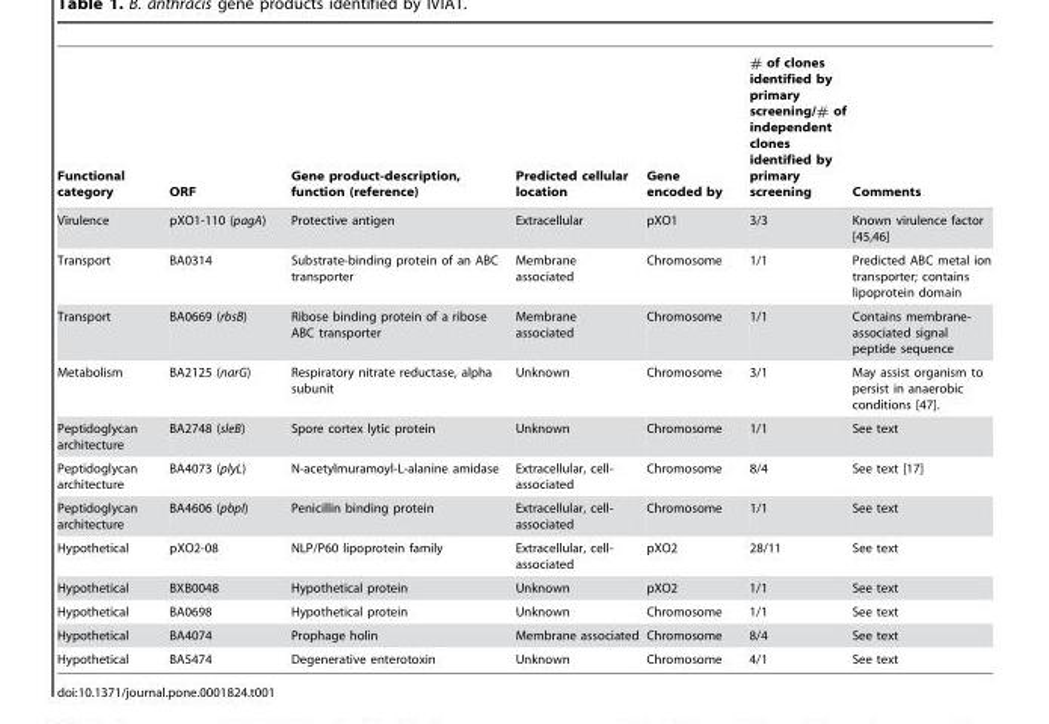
<table><thead><tr><td>Functional category</td><td>ORF</td><td>Gene product-description, function (reference)</td><td>Predicted cellular location</td><td>Gene encoded by</td><td># of clones identified by primary screening/# of independent clones identified by primary screening</td><td>Comments</td></tr></thead><tbody><tr><td>Virulence</td><td>pXO1-110 (pagA)</td><td>Protective antigen</td><td>Extracellular</td><td>pXO1</td><td>3/3</td><td>Known virulence factor [45,46]</td></tr><tr><td>Transport</td><td>BA0314</td><td>Substrate-binding protein of an ABC transporter</td><td>Membrane associated</td><td>Chromosome</td><td>1/1</td><td>Predicted ABC metal ion transporter; contains lipoprotein domain</td></tr><tr><td>Transport</td><td>BA0669 (rbsB)</td><td>Ribose binding protein of a ribose ABC transporter</td><td>Membrane associated</td><td>Chromosome</td><td>1/1</td><td>Contains membrane- associated signal peptide sequence</td></tr><tr><td>Metabolism</td><td>BA2125 (narG)</td><td>Respiratory nitrate reductase, alpha subunit</td><td>Unknown</td><td>Chromosome</td><td>3/1</td><td>May assist organism to persist in anaerobic conditions [47].</td></tr><tr><td>Peptidoglycan architecture</td><td>BA2748 (sleB)</td><td>Spore cortex lytic protein</td><td>Unknown</td><td>Chromosome</td><td>1/1</td><td>See text</td></tr><tr><td>Peptidoglycan architecture</td><td>BA4073 (plyL)</td><td>N-acetylmuramoyl-L-alanine amidase</td><td>Extracellular, cell- associated</td><td>Chromosome</td><td>8/4</td><td>See text [17]</td></tr><tr><td>Peptidoglycan architecture</td><td>BA4606 (pbpI)</td><td>Penicillin binding protein</td><td>Extracellular, cell- associated</td><td>Chromosome</td><td>1/1</td><td>See text</td></tr><tr><td>Hypothetical</td><td>pXO2-08</td><td>NLP/P60 lipoprotein family</td><td>Extracellular, cell- associated</td><td>pXO2</td><td>28/11</td><td>See text</td></tr><tr><td>Hypothetical</td><td>BXB0048</td><td>Hypothetical protein</td><td>Unknown</td><td>pXO2</td><td>1/1</td><td>See text</td></tr><tr><td>Hypothetical</td><td>BA0698</td><td>Hypothetical protein</td><td>Unknown</td><td>Chromosome</td><td>1/1</td><td>See text</td></tr><tr><td>Hypothetical</td><td>BA4074</td><td>Prophage holin</td><td>Membrane associated</td><td>Chromosome</td><td>8/4</td><td>See text</td></tr><tr><td>Hypothetical</td><td>BA5474</td><td>Degenerative enterotoxin</td><td>Unknown</td><td>Chromosome</td><td>4/1</td><td>See text</td></tr></tbody></table>